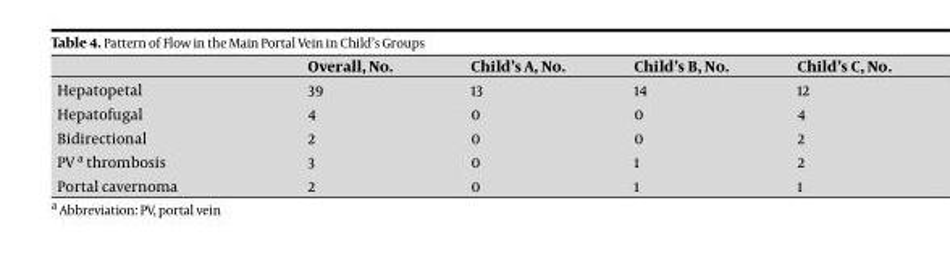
<table><thead><tr><td></td><td>Overall, No.</td><td>Child’s A, No.</td><td>Child’s B, No.</td><td>Child’s C, No.</td></tr></thead><tbody><tr><td>Hepatopetal</td><td>39</td><td>13</td><td>14</td><td>12</td></tr><tr><td>Hepatofugal</td><td>4</td><td>0</td><td>0</td><td>4</td></tr><tr><td>Bidirectional</td><td>2</td><td>0</td><td>0</td><td>2</td></tr><tr><td>PV a thrombosis</td><td>3</td><td>0</td><td>1</td><td>2</td></tr><tr><td>Portal cavernoma</td><td>2</td><td>0</td><td>1</td><td>1</td></tr></tbody></table>